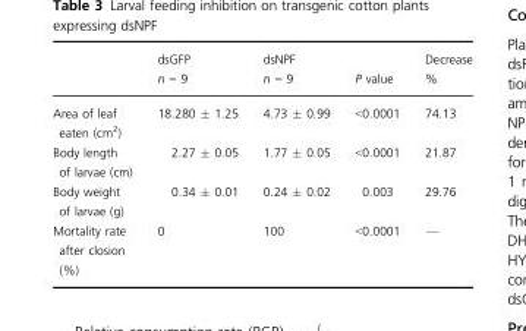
<table><thead><tr><td rowspan="2"></td><td rowspan="2">dsGFP n = 9</td><td rowspan="2">dsNPF n = 9</td><td rowspan="2">P value</td><td rowspan="2">Decrease %</td></tr><tr></tr></thead><tbody><tr><td>Area of leaf eaten (cm<sup>2</sup>)</td><td>18.280 ± 1.25</td><td>4.73 ± 0.99</td><td>&lt;0.0001</td><td>74.13</td></tr><tr><td>Body length of larvae (cm)</td><td>2.27 ± 0.05</td><td>1.77 ± 0.05</td><td>&lt;0.0001</td><td>21.87</td></tr><tr><td>Body weight of larvae (g)</td><td>0.34 ± 0.01</td><td>0.24 ± 0.02</td><td>0.003</td><td>29.76</td></tr><tr><td>Mortality rate after closion (%)</td><td>0</td><td>100</td><td>&lt;0.0001</td><td>—</td></tr></tbody></table>